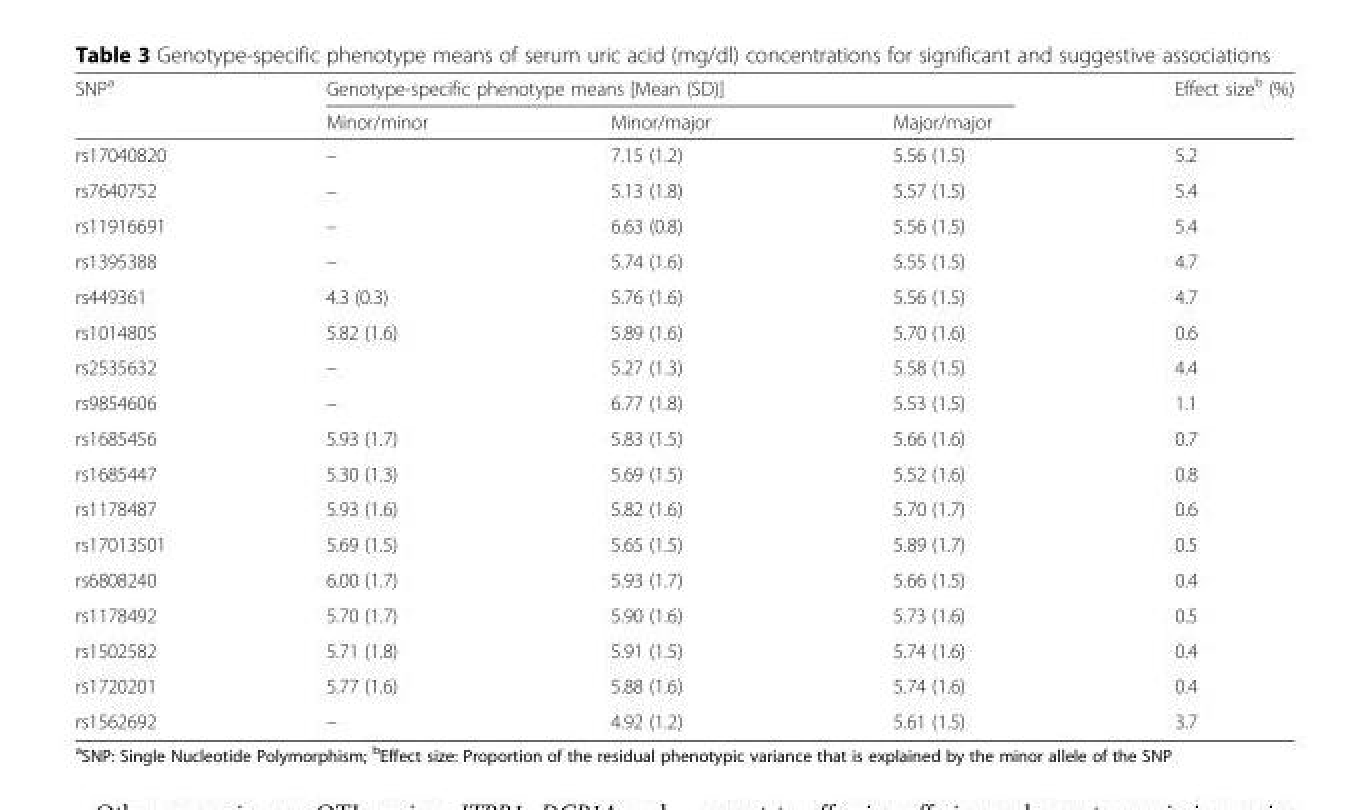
<table><thead><tr><td rowspan="2">SNP<sup>a</sup></td><td colspan="3">Genotype-specific phenotype means [Mean (SD)]</td><td rowspan="2">Effect size<sup>b</sup> (%)</td></tr><tr><td>Minor/minor</td><td>Minor/major</td><td>Major/major</td></tr></thead><tbody><tr><td>rs17040820</td><td>–</td><td>7.15 (1.2)</td><td>5.56 (1.5)</td><td>5.2</td></tr><tr><td>rs7640752</td><td>–</td><td>5.13 (1.8)</td><td>5.57 (1.5)</td><td>5.4</td></tr><tr><td>rs11916691</td><td>–</td><td>6.63 (0.8)</td><td>5.56 (1.5)</td><td>5.4</td></tr><tr><td>rs1395388</td><td>–</td><td>5.74 (1.6)</td><td>5.55 (1.5)</td><td>4.7</td></tr><tr><td>rs449361</td><td>4.3 (0.3)</td><td>5.76 (1.6)</td><td>5.56 (1.5)</td><td>4.7</td></tr><tr><td>rs1014805</td><td>5.82 (1.6)</td><td>5.89 (1.6)</td><td>5.70 (1.6)</td><td>0.6</td></tr><tr><td>rs2535632</td><td>–</td><td>5.27 (1.3)</td><td>5.58 (1.5)</td><td>4.4</td></tr><tr><td>rs9854606</td><td>–</td><td>6.77 (1.8)</td><td>5.53 (1.5)</td><td>1.1</td></tr><tr><td>rs1685456</td><td>5.93 (1.7)</td><td>5.83 (1.5)</td><td>5.66 (1.6)</td><td>0.7</td></tr><tr><td>rs1685447</td><td>5.30 (1.3)</td><td>5.69 (1.5)</td><td>5.52 (1.6)</td><td>0.8</td></tr><tr><td>rs1178487</td><td>5.93 (1.6)</td><td>5.82 (1.6)</td><td>5.70 (1.7)</td><td>0.6</td></tr><tr><td>rs17013501</td><td>5.69 (1.5)</td><td>5.65 (1.5)</td><td>5.89 (1.7)</td><td>0.5</td></tr><tr><td>rs6808240</td><td>6.00 (1.7)</td><td>5.93 (1.7)</td><td>5.66 (1.5)</td><td>0.4</td></tr><tr><td>rs1178492</td><td>5.70 (1.7)</td><td>5.90 (1.6)</td><td>5.73 (1.6)</td><td>0.5</td></tr><tr><td>rs1502582</td><td>5.71 (1.8)</td><td>5.91 (1.5)</td><td>5.74 (1.6)</td><td>0.4</td></tr><tr><td>rs1720201</td><td>5.77 (1.6)</td><td>5.88 (1.6)</td><td>5.74 (1.6)</td><td>0.4</td></tr><tr><td>rs1562692</td><td>–</td><td>4.92 (1.2)</td><td>5.61 (1.5)</td><td>3.7</td></tr></tbody></table>